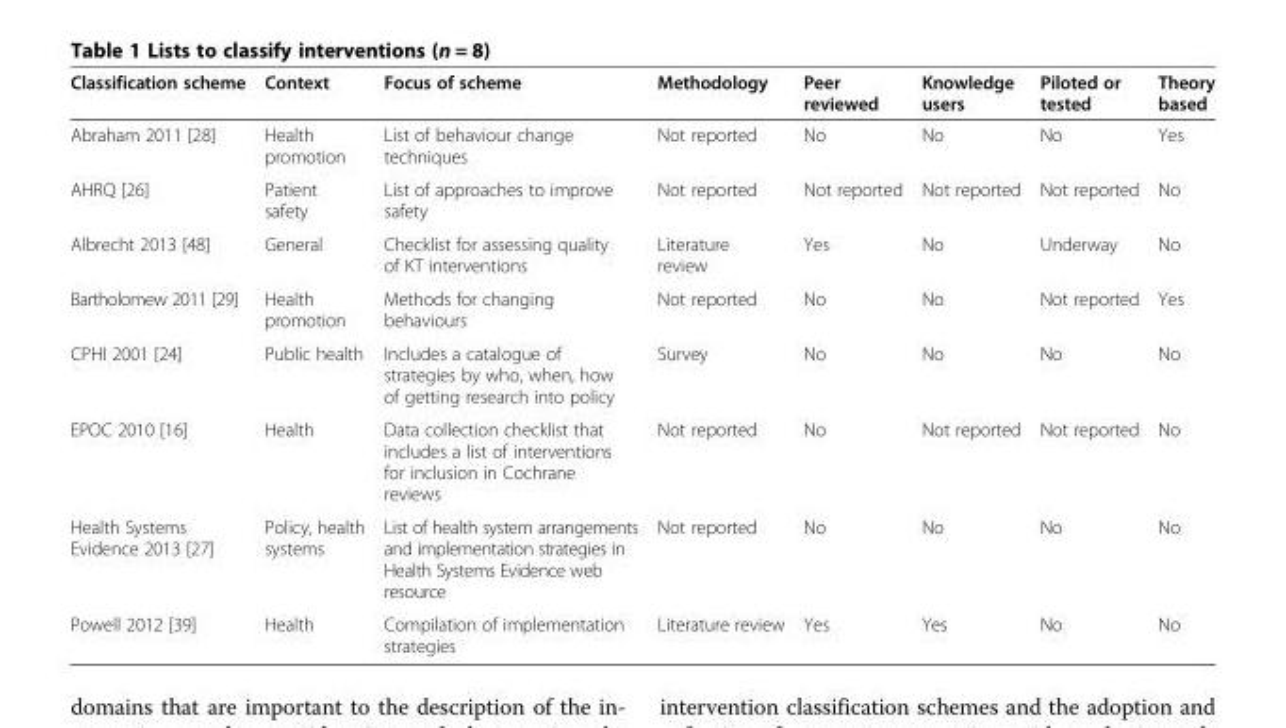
<table><thead><tr><td>Classification scheme</td><td>Context</td><td>Focus of scheme</td><td>Methodology</td><td>Peer reviewed</td><td>Knowledge users</td><td>Piloted or tested</td><td>Theory based</td></tr></thead><tbody><tr><td>Abraham 2011 [28]</td><td>Health promotion</td><td>List of behaviour change techniques</td><td>Not reported</td><td>No</td><td>No</td><td>No</td><td>Yes</td></tr><tr><td>AHRQ [26]</td><td>Patient safety</td><td>List of approaches to improve safety</td><td>Not reported</td><td>Not reported</td><td>Not reported</td><td>Not reported</td><td>No</td></tr><tr><td>Albrecht 2013 [48]</td><td>General</td><td>Checklist for assessing quality of KT interventions</td><td>Literature review</td><td>Yes</td><td>No</td><td>Underway</td><td>No</td></tr><tr><td>Bartholomew 2011 [29]</td><td>Health promotion</td><td>Methods for changing behaviours</td><td>Not reported</td><td>No</td><td>No</td><td>Not reported</td><td>Yes</td></tr><tr><td>CPHI 2001 [24]</td><td>Public health</td><td>Includes a catalogue of strategies by who, when, how of getting research into policy</td><td>Survey</td><td>No</td><td>No</td><td>No</td><td>No</td></tr><tr><td>EPOC 2010 [16]</td><td>Health</td><td>Data collection checklist that includes a list of interventions for inclusion in Cochrane reviews</td><td>Not reported</td><td>No</td><td>Not reported</td><td>Not reported</td><td>No</td></tr><tr><td>Health Systems Evidence 2013 [27]</td><td>Policy, health systems</td><td>List of health system arrangements and implementation strategies in Health Systems Evidence web resource</td><td>Not reported</td><td>No</td><td>No</td><td>No</td><td>No</td></tr><tr><td>Powell 2012 [39]</td><td>Health</td><td>Compilation of implementation strategies</td><td>Literature review</td><td>Yes</td><td>Yes</td><td>No</td><td>No</td></tr></tbody></table>